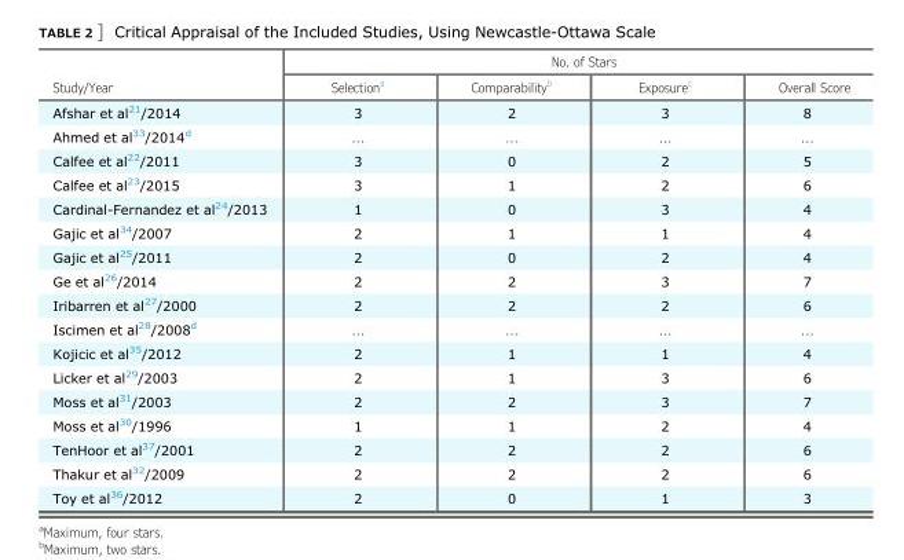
<table><thead><tr><td rowspan="2">Study/Year</td><td colspan="4">No. of Stars</td></tr><tr><td>Selection<sup>a</sup></td><td>Comparability<sup>b</sup></td><td>Exposure<sup>c</sup></td><td>Overall Score</td></tr></thead><tbody><tr><td>Afshar et al<sup>21</sup>/2014</td><td>3</td><td>2</td><td>3</td><td>8</td></tr><tr><td>Ahmed et al<sup>33</sup>/2014<sup>d</sup></td><td>…</td><td>…</td><td>…</td><td>…</td></tr><tr><td>Calfee et al<sup>22</sup>/2011</td><td>3</td><td>0</td><td>2</td><td>5</td></tr><tr><td>Calfee et al<sup>23</sup>/2015</td><td>3</td><td>1</td><td>2</td><td>6</td></tr><tr><td>Cardinal-Fernandez et al<sup>24</sup>/2013</td><td>1</td><td>0</td><td>3</td><td>4</td></tr><tr><td>Gajic et al<sup>34</sup>/2007</td><td>2</td><td>1</td><td>1</td><td>4</td></tr><tr><td>Gajic et al<sup>25</sup>/2011</td><td>2</td><td>0</td><td>2</td><td>4</td></tr><tr><td>Ge et al<sup>26</sup>/2014</td><td>2</td><td>2</td><td>3</td><td>7</td></tr><tr><td>Iribarren et al<sup>27</sup>/2000</td><td>2</td><td>2</td><td>2</td><td>6</td></tr><tr><td>Iscimen et al<sup>28</sup>/2008<sup>d</sup></td><td>…</td><td>…</td><td>…</td><td>…</td></tr><tr><td>Kojicic et al<sup>35</sup>/2012</td><td>2</td><td>1</td><td>1</td><td>4</td></tr><tr><td>Licker et al<sup>29</sup>/2003</td><td>2</td><td>1</td><td>3</td><td>6</td></tr><tr><td>Moss et al<sup>31</sup>/2003</td><td>2</td><td>2</td><td>3</td><td>7</td></tr><tr><td>Moss et al<sup>30</sup>/1996</td><td>1</td><td>1</td><td>2</td><td>4</td></tr><tr><td>TenHoor et al<sup>37</sup>/2001</td><td>2</td><td>2</td><td>2</td><td>6</td></tr><tr><td>Thakur et al<sup>32</sup>/2009</td><td>2</td><td>2</td><td>2</td><td>6</td></tr><tr><td>Toy et al<sup>36</sup>/2012</td><td>2</td><td>0</td><td>1</td><td>3</td></tr></tbody></table>